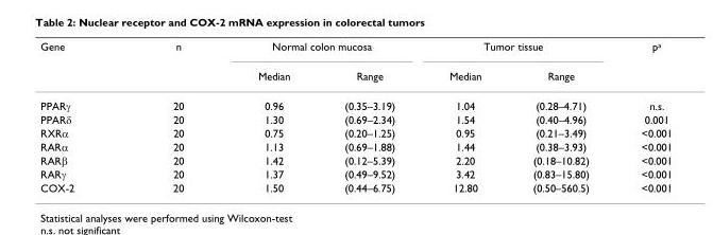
<table><thead><tr><td rowspan="2">Gene</td><td rowspan="2">n</td><td colspan="2">Normal colon mucosa</td><td colspan="2">Tumor tissue</td><td rowspan="2">p<sup>a</sup></td></tr><tr><td>Median</td><td>Range</td><td>Median</td><td>Range</td></tr></thead><tbody><tr><td>PPARγ</td><td>20</td><td>0.96</td><td>(0.35–3.19)</td><td>1.04</td><td>(0.28–4.71)</td><td>n.s.</td></tr><tr><td>PPARδ</td><td>20</td><td>1.30</td><td>(0.69–2.34)</td><td>1.54</td><td>(0.40–4.96)</td><td>0.001</td></tr><tr><td>RXRα</td><td>20</td><td>0.75</td><td>(0.20–1.25)</td><td>0.95</td><td>(0.21–3.49)</td><td>&lt;0.001</td></tr><tr><td>RARα</td><td>20</td><td>1.13</td><td>(0.69–1.88)</td><td>1.44</td><td>(0.38–3.93)</td><td>&lt;0.001</td></tr><tr><td>RARβ</td><td>20</td><td>1.42</td><td>(0.12–5.39)</td><td>2.20</td><td>(0.18–10.82)</td><td>&lt;0.001</td></tr><tr><td>RARγ</td><td>20</td><td>1.37</td><td>(0.49–9.52)</td><td>3.42</td><td>(0.83–15.80)</td><td>&lt;0.001</td></tr><tr><td>COX-2</td><td>20</td><td>1.50</td><td>(0.44–6.75)</td><td>12.80</td><td>(0.50–560.5)</td><td>&lt;0.001</td></tr></tbody></table>